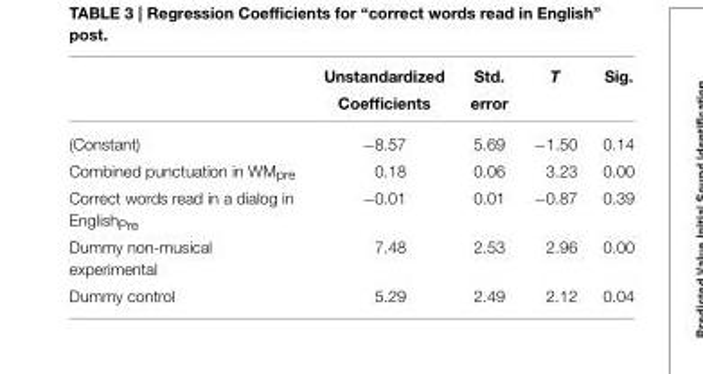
<table><thead><tr><td></td><td>Unstandardized Coefficients</td><td>Std. error</td><td>T</td><td>Sig.</td></tr></thead><tbody><tr><td>(Constant)</td><td>−8.57</td><td>5.69</td><td>−1.50</td><td>0.14</td></tr><tr><td>Combined punctuation in WM<sub>pre</sub></td><td>0.18</td><td>0.06</td><td>3.23</td><td>0.00</td></tr><tr><td>Correct words read in a dialog in English<sub>Pre</sub></td><td>−0.01</td><td>0.01</td><td>−0.87</td><td>0.39</td></tr><tr><td>Dummy non-musical experimental</td><td>7.48</td><td>2.53</td><td>2.96</td><td>0.00</td></tr><tr><td>Dummy control</td><td>5.29</td><td>2.49</td><td>2.12</td><td>0.04</td></tr></tbody></table>